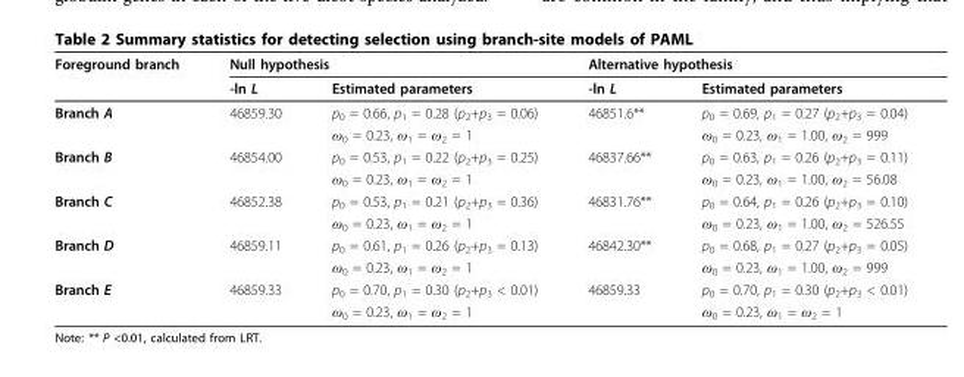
<table><thead><tr><td rowspan="2">Foreground branch</td><td colspan="2">Null hypothesis</td><td colspan="2">Alternative hypothesis</td></tr><tr><td>-ln L</td><td>Estimated parameters</td><td>-ln L</td><td>Estimated parameters</td></tr></thead><tbody><tr><td rowspan="2">Branch A</td><td>46859.30</td><td>p<sub>0</sub> = 0.66, p<sub>1</sub> = 0.28 (p<sub>2</sub>+p<sub>3</sub> = 0.06)</td><td>46851.6**</td><td>p<sub>0</sub> = 0.69, p<sub>1</sub> = 0.27 (p<sub>2</sub>+p<sub>3</sub> = 0.04)</td></tr><tr><td></td><td>ω<sub>0</sub> = 0.23, ω<sub>1</sub> = ω<sub>2</sub> = 1</td><td></td><td>ω<sub>0</sub> = 0.23, ω<sub>1</sub> = 1.00, ω<sub>2</sub> = 999</td></tr><tr><td rowspan="2">Branch B</td><td>46854.00</td><td>p<sub>0</sub> = 0.53, p<sub>1</sub> = 0.22 (p<sub>2</sub>+p<sub>3</sub> = 0.25)</td><td>46837.66**</td><td>p<sub>0</sub> = 0.63, p<sub>1</sub> = 0.26 (p<sub>2</sub>+p<sub>3</sub> = 0.11)</td></tr><tr><td></td><td>ω<sub>0</sub> = 0.23, ω<sub>1</sub> = ω<sub>2</sub> = 1</td><td></td><td>ω<sub>0</sub> = 0.23, ω<sub>1</sub> = 1.00, ω<sub>2</sub> = 56.08</td></tr><tr><td rowspan="2">Branch C</td><td>46852.38</td><td>p<sub>0</sub> = 0.53, p<sub>1</sub> = 0.21 (p<sub>2</sub>+p<sub>3</sub> = 0.36)</td><td>46831.76**</td><td>p<sub>0</sub> = 0.64, p<sub>1</sub> = 0.26 (p<sub>2</sub>+p<sub>3</sub> = 0.10)</td></tr><tr><td></td><td>ω<sub>0</sub> = 0.23, ω<sub>1</sub> = ω<sub>2</sub> = 1</td><td></td><td>ω<sub>0</sub> = 0.23, ω<sub>1</sub> = 1.00, ω<sub>2</sub> = 526.55</td></tr><tr><td rowspan="2">Branch D</td><td>46859.11</td><td>p<sub>0</sub> = 0.61, p<sub>1</sub> = 0.26 (p<sub>2</sub>+p<sub>3</sub> = 0.13)</td><td>46842.30**</td><td>p<sub>0</sub> = 0.68, p<sub>1</sub> = 0.27 (p<sub>2</sub>+p<sub>3</sub> = 0.05)</td></tr><tr><td></td><td>ω<sub>0</sub> = 0.23, ω<sub>1</sub> = ω<sub>2</sub> = 1</td><td></td><td>ω<sub>0</sub> = 0.23, ω<sub>1</sub> = 1.00, ω<sub>2</sub> = 999</td></tr><tr><td rowspan="2">Branch E</td><td>46859.33</td><td>p<sub>0</sub> = 0.70, p<sub>1</sub> = 0.30 (p<sub>2</sub>+p<sub>3</sub> &lt; 0.01)</td><td>46859.33</td><td>p<sub>0</sub> = 0.70, p<sub>1</sub> = 0.30 (p<sub>2</sub>+p<sub>3</sub> &lt; 0.01)</td></tr><tr><td></td><td>ω<sub>0</sub> = 0.23, ω<sub>1</sub> = ω<sub>2</sub> = 1</td><td></td><td>ω<sub>0</sub> = 0.23, ω<sub>1</sub> = ω<sub>2</sub> = 1</td></tr></tbody></table>